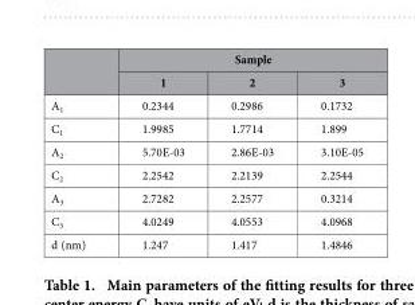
<table><thead><tr><td rowspan="2"></td><td colspan="3">Sample</td></tr><tr><td>1</td><td>2</td><td>3</td></tr></thead><tbody><tr><td>A<sub>1</sub></td><td>0.2344</td><td>0.2986</td><td>0.1732</td></tr><tr><td>C<sub>1</sub></td><td>1.9985</td><td>1.7714</td><td>1.899</td></tr><tr><td>A<sub>2</sub></td><td>5.70E-03</td><td>2.86E-03</td><td>3.10E-05</td></tr><tr><td>C<sub>2</sub></td><td>2.2542</td><td>2.2139</td><td>2.2544</td></tr><tr><td>A<sub>3</sub></td><td>2.7282</td><td>2.2577</td><td>0.3214</td></tr><tr><td>C<sub>3</sub></td><td>4.0249</td><td>4.0553</td><td>4.0968</td></tr><tr><td>d (nm)</td><td>1.247</td><td>1.417</td><td>1.4846</td></tr></tbody></table>